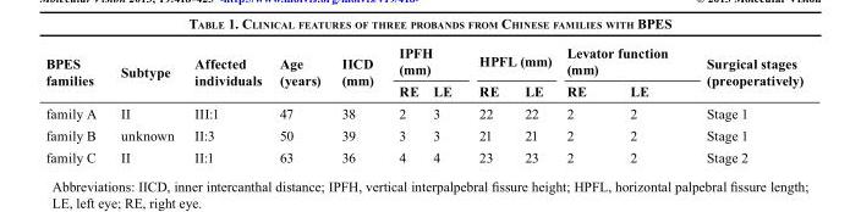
<table><thead><tr><td rowspan="2">BPES families</td><td rowspan="2">Subtype</td><td rowspan="2">Affected individuals</td><td rowspan="2">Age (years)</td><td rowspan="2">IICD (mm)</td><td colspan="2">IPFH (mm)</td><td colspan="2">HPFL (mm)</td><td colspan="2">Levator function (mm)</td><td rowspan="2">Surgical stages (preoperatively)</td></tr><tr><td>RE</td><td>LE</td><td>RE</td><td>LE</td><td>RE</td><td>LE</td></tr></thead><tbody><tr><td>family A</td><td>II</td><td>III:1</td><td>47</td><td>38</td><td>2</td><td>3</td><td>22</td><td>22</td><td>2</td><td>2</td><td>Stage 1</td></tr><tr><td>family B</td><td>unknown</td><td>II:3</td><td>50</td><td>39</td><td>3</td><td>3</td><td>21</td><td>21</td><td>2</td><td>2</td><td>Stage 1</td></tr><tr><td>family C</td><td>II</td><td>II:1</td><td>63</td><td>36</td><td>4</td><td>4</td><td>23</td><td>23</td><td>2</td><td>2</td><td>Stage 2</td></tr></tbody></table>